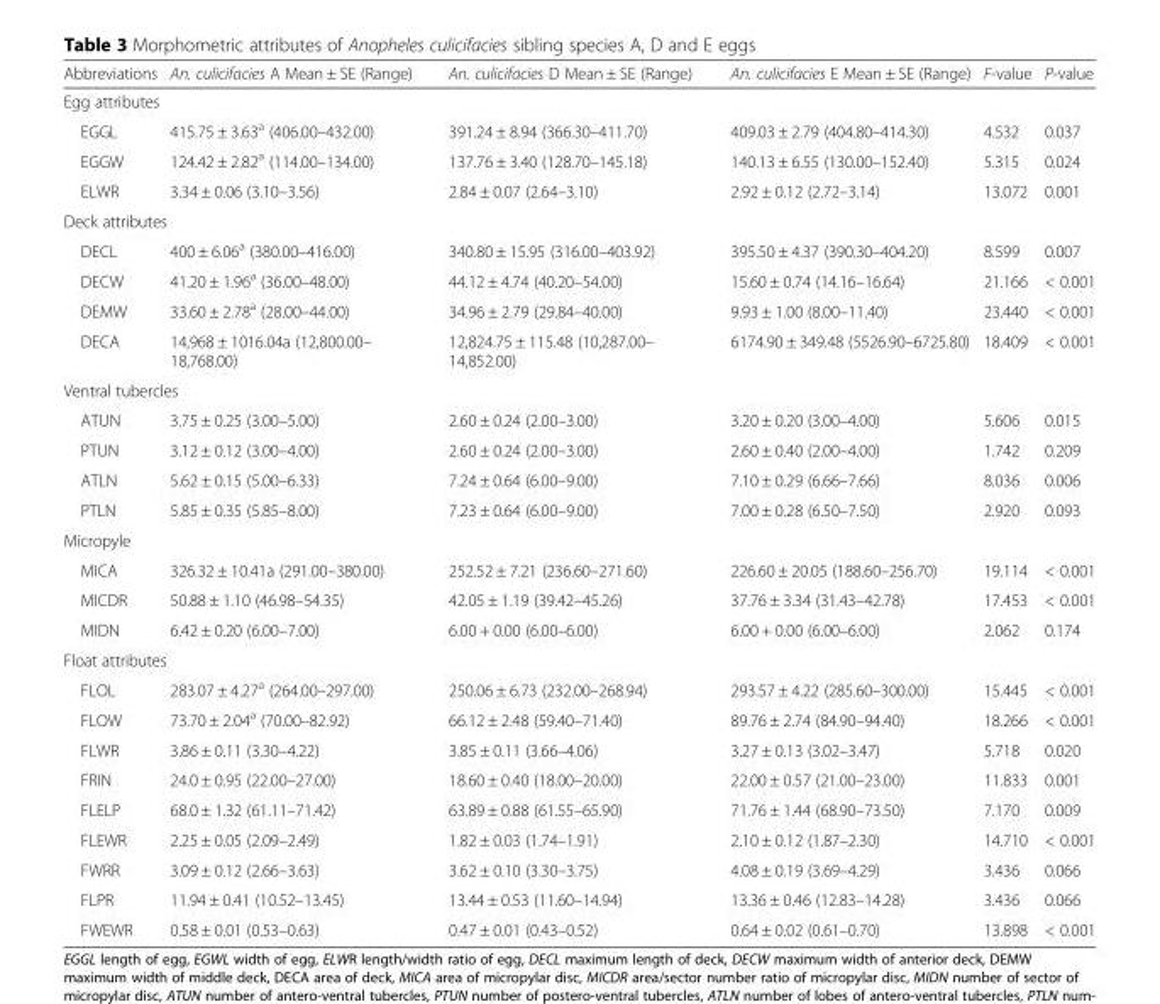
<table><thead><tr><td>Abbreviations</td><td>An. culicifacies A Mean ± SE (Range)</td><td>An. culicifacies D Mean ± SE (Range)</td><td>An. culicifacies E Mean ± SE (Range)</td><td>F-value</td><td>P-value</td></tr></thead><tbody><tr><td colspan="6">Egg attributes</td></tr><tr><td>EGGL</td><td>415.75 ± 3.63<sup>a</sup> (406.00–432.00)</td><td>391.24 ± 8.94 (366.30–411.70)</td><td>409.03 ± 2.79 (404.80–414.30)</td><td>4.532</td><td>0.037</td></tr><tr><td>EGGW</td><td>124.42 ± 2.82<sup>a</sup> (114.00–134.00)</td><td>137.76 ± 3.40 (128.70–145.18)</td><td>140.13 ± 6.55 (130.00–152.40)</td><td>5.315</td><td>0.024</td></tr><tr><td>ELWR</td><td>3.34 ± 0.06 (3.10–3.56)</td><td>2.84 ± 0.07 (2.64–3.10)</td><td>2.92 ± 0.12 (2.72–3.14)</td><td>13.072</td><td>0.001</td></tr><tr><td colspan="6">Deck attributes</td></tr><tr><td>DECL</td><td>400 ± 6.06<sup>a</sup> (380.00–416.00)</td><td>340.80 ± 15.95 (316.00–403.92)</td><td>395.50 ± 4.37 (390.30–404.20)</td><td>8.599</td><td>0.007</td></tr><tr><td>DECW</td><td>41.20 ± 1.96<sup>a</sup> (36.00–48.00)</td><td>44.12 ± 4.74 (40.20–54.00)</td><td>15.60 ± 0.74 (14.16–16.64)</td><td>21.166</td><td>&lt; 0.001</td></tr><tr><td>DEMW</td><td>33.60 ± 2.78<sup>a</sup> (28.00–44.00)</td><td>34.96 ± 2.79 (29.84–40.00)</td><td>9.93 ± 1.00 (8.00–11.40)</td><td>23.440</td><td>&lt; 0.001</td></tr><tr><td>DECA</td><td>14,968 ± 1016.04a (12,800.00– 18,768.00)</td><td>12,824.75 ± 115.48 (10,287.00– 14,852.00)</td><td>6174.90 ± 349.48 (5526.90–6725.80)</td><td>18.409</td><td>&lt; 0.001</td></tr><tr><td colspan="6">Ventral tubercles</td></tr><tr><td>ATUN</td><td>3.75 ± 0.25 (3.00–5.00)</td><td>2.60 ± 0.24 (2.00–3.00)</td><td>3.20 ± 0.20 (3.00–4.00)</td><td>5.606</td><td>0.015</td></tr><tr><td>PTUN</td><td>3.12 ± 0.12 (3.00–4.00)</td><td>2.60 ± 0.24 (2.00–3.00)</td><td>2.60 ± 0.40 (2.00–4.00)</td><td>1.742</td><td>0.209</td></tr><tr><td>ATLN</td><td>5.62 ± 0.15 (5.00–6.33)</td><td>7.24 ± 0.64 (6.00–9.00)</td><td>7.10 ± 0.29 (6.66–7.66)</td><td>8.036</td><td>0.006</td></tr><tr><td>PTLN</td><td>5.85 ± 0.35 (5.85–8.00)</td><td>7.23 ± 0.64 (6.00–9.00)</td><td>7.00 ± 0.28 (6.50–7.50)</td><td>2.920</td><td>0.093</td></tr><tr><td colspan="6">Micropyle</td></tr><tr><td>MICA</td><td>326.32 ± 10.41a (291.00–380.00)</td><td>252.52 ± 7.21 (236.60–271.60)</td><td>226.60 ± 20.05 (188.60–256.70)</td><td>19.114</td><td>&lt; 0.001</td></tr><tr><td>MICDR</td><td>50.88 ± 1.10 (46.98–54.35)</td><td>42.05 ± 1.19 (39.42–45.26)</td><td>37.76 ± 3.34 (31.43–42.78)</td><td>17.453</td><td>&lt; 0.001</td></tr><tr><td>MIDN</td><td>6.42 ± 0.20 (6.00–7.00)</td><td>6.00 + 0.00 (6.00–6.00)</td><td>6.00 + 0.00 (6.00–6.00)</td><td>2.062</td><td>0.174</td></tr><tr><td colspan="6">Float attributes</td></tr><tr><td>FLOL</td><td>283.07 ± 4.27<sup>a</sup> (264.00–297.00)</td><td>250.06 ± 6.73 (232.00–268.94)</td><td>293.57 ± 4.22 (285.60–300.00)</td><td>15.445</td><td>&lt; 0.001</td></tr><tr><td>FLOW</td><td>73.70 ± 2.04<sup>a</sup> (70.00–82.92)</td><td>66.12 ± 2.48 (59.40–71.40)</td><td>89.76 ± 2.74 (84.90–94.40)</td><td>18.266</td><td>&lt; 0.001</td></tr><tr><td>FLWR</td><td>3.86 ± 0.11 (3.30–4.22)</td><td>3.85 ± 0.11 (3.66–4.06)</td><td>3.27 ± 0.13 (3.02–3.47)</td><td>5.718</td><td>0.020</td></tr><tr><td>FRIN</td><td>24.0 ± 0.95 (22.00–27.00)</td><td>18.60 ± 0.40 (18.00–20.00)</td><td>22.00 ± 0.57 (21.00–23.00)</td><td>11.833</td><td>0.001</td></tr><tr><td>FLELP</td><td>68.0 ± 1.32 (61.11–71.42)</td><td>63.89 ± 0.88 (61.55–65.90)</td><td>71.76 ± 1.44 (68.90–73.50)</td><td>7.170</td><td>0.009</td></tr><tr><td>FLEWR</td><td>2.25 ± 0.05 (2.09–2.49)</td><td>1.82 ± 0.03 (1.74–1.91)</td><td>2.10 ± 0.12 (1.87–2.30)</td><td>14.710</td><td>&lt; 0.001</td></tr><tr><td>FWRR</td><td>3.09 ± 0.12 (2.66–3.63)</td><td>3.62 ± 0.10 (3.30–3.75)</td><td>4.08 ± 0.19 (3.69–4.29)</td><td>3.436</td><td>0.066</td></tr><tr><td>FLPR</td><td>11.94 ± 0.41 (10.52–13.45)</td><td>13.44 ± 0.53 (11.60–14.94)</td><td>13.36 ± 0.46 (12.83–14.28)</td><td>3.436</td><td>0.066</td></tr><tr><td>FWEWR</td><td>0.58 ± 0.01 (0.53–0.63)</td><td>0.47 ± 0.01 (0.43–0.52)</td><td>0.64 ± 0.02 (0.61–0.70)</td><td>13.898</td><td>&lt; 0.001</td></tr></tbody></table>